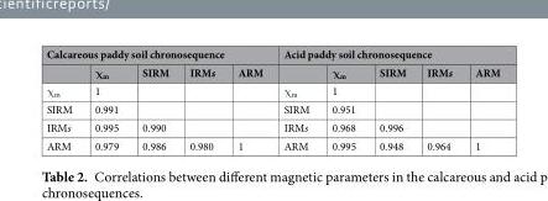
<table><thead><tr><td colspan="5">Calcareous paddy soil chronosequence</td><td colspan="5">Acid paddy soil chronosequence</td></tr><tr><td></td><td>χ<sub>m</sub></td><td>SIRM</td><td>IRMs</td><td>ARM</td><td></td><td>χ<sub>m</sub></td><td>SIRM</td><td>IRMs</td><td>ARM</td></tr></thead><tbody><tr><td>χ<sub>m</sub></td><td>1</td><td></td><td></td><td></td><td>χ<sub>m</sub></td><td>1</td><td></td><td></td><td></td></tr><tr><td>SIRM</td><td>0.991</td><td></td><td></td><td></td><td>SIRM</td><td>0.951</td><td></td><td></td><td></td></tr><tr><td>IRMs</td><td>0.995</td><td>0.990</td><td></td><td></td><td>IRMs</td><td>0.968</td><td>0.996</td><td></td><td></td></tr><tr><td>ARM</td><td>0.979</td><td>0.986</td><td>0.980</td><td>1</td><td>ARM</td><td>0.995</td><td>0.948</td><td>0.964</td><td>1</td></tr></tbody></table>